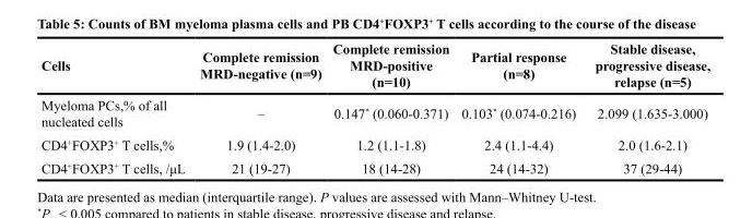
<table><thead><tr><td>Cells</td><td>Complete remission MRD-negative (n=9)</td><td>Complete remission MRD-positive (n=10)</td><td>Partial response (n=8)</td><td>Stable disease, progressive disease, relapse (n=5)</td></tr></thead><tbody><tr><td>Myeloma PCs,% of all nucleated cells</td><td>–</td><td>0.147* (0.060-0.371)</td><td>0.103* (0.074-0.216)</td><td>2.099 (1.635-3.000)</td></tr><tr><td>CD4<sup>+</sup>FOXP3<sup>+</sup> T cells,%</td><td>1.9 (1.4-2.0)</td><td>1.2 (1.1-1.8)</td><td>2.4 (1.1-4.4)</td><td>2.0 (1.6-2.1)</td></tr><tr><td>CD4<sup>+</sup>FOXP3<sup>+</sup> T cells, /μL</td><td>21 (19-27)</td><td>18 (14-28)</td><td>24 (14-32)</td><td>37 (29-44)</td></tr></tbody></table>